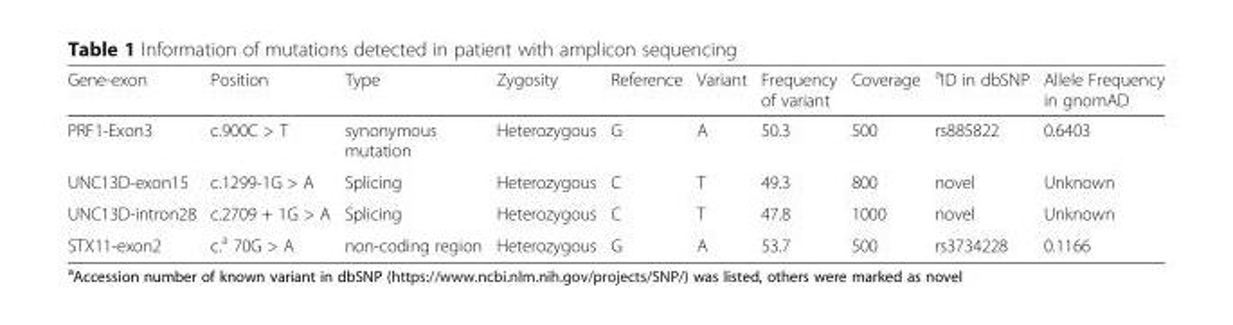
<table><thead><tr><td>Gene-exon</td><td>Position</td><td>Type</td><td>Zygosity</td><td>Reference</td><td>Variant</td><td>Frequency of variant</td><td>Coverage</td><td><sup>a</sup>ID in dbSNP</td><td>Allele Frequency in gnomAD</td></tr></thead><tbody><tr><td>PRF1-Exon3</td><td>c.900C &gt; T</td><td>synonymous mutation</td><td>Heterozygous</td><td>G</td><td>A</td><td>50.3</td><td>500</td><td>rs885822</td><td>0.6403</td></tr><tr><td>UNC13D-exon15</td><td>c.1299-1G &gt; A</td><td>Splicing</td><td>Heterozygous</td><td>C</td><td>T</td><td>49.3</td><td>800</td><td>novel</td><td>Unknown</td></tr><tr><td>UNC13D-intron28</td><td>c.2709 + 1G &gt; A</td><td>Splicing</td><td>Heterozygous</td><td>C</td><td>T</td><td>47.8</td><td>1000</td><td>novel</td><td>Unknown</td></tr><tr><td>STX11-exon2</td><td>c.<sup>a</sup> 70G &gt; A</td><td>non-coding region</td><td>Heterozygous</td><td>G</td><td>A</td><td>53.7</td><td>500</td><td>rs3734228</td><td>0.1166</td></tr></tbody></table>